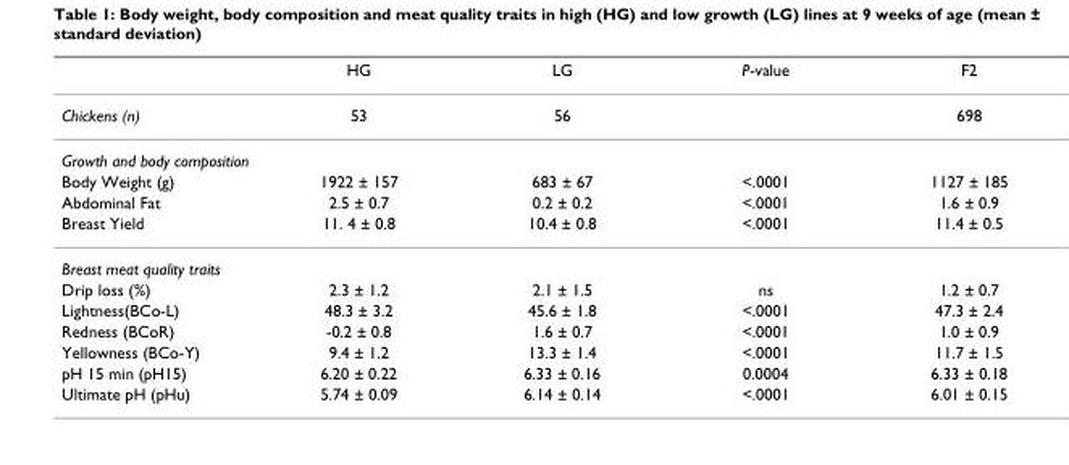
<table><thead><tr><td></td><td>HG</td><td>LG</td><td>P-value</td><td>F2</td></tr></thead><tbody><tr><td>Chickens (n)</td><td>53</td><td>56</td><td></td><td>698</td></tr><tr><td colspan="5">Growth and body composition</td></tr><tr><td>Body Weight (g)</td><td>1922 ± 157</td><td>683 ± 67</td><td>&lt;.0001</td><td>1127 ± 185</td></tr><tr><td>Abdominal Fat</td><td>2.5 ± 0.7</td><td>0.2 ± 0.2</td><td>&lt;.0001</td><td>1.6 ± 0.9</td></tr><tr><td>Breast Yield</td><td>11. 4 ± 0.8</td><td>10.4 ± 0.8</td><td>&lt;.0001</td><td>11.4 ± 0.5</td></tr><tr><td colspan="5">Breast meat quality traits</td></tr><tr><td>Drip loss (%)</td><td>2.3 ± 1.2</td><td>2.1 ± 1.5</td><td>ns</td><td>1.2 ± 0.7</td></tr><tr><td>Lightness(BCo-L)</td><td>48.3 ± 3.2</td><td>45.6 ± 1.8</td><td>&lt;.0001</td><td>47.3 ± 2.4</td></tr><tr><td>Redness (BCoR)</td><td>-0.2 ± 0.8</td><td>1.6 ± 0.7</td><td>&lt;.0001</td><td>1.0 ± 0.9</td></tr><tr><td>Yellowness (BCo-Y)</td><td>9.4 ± 1.2</td><td>13.3 ± 1.4</td><td>&lt;.0001</td><td>11.7 ± 1.5</td></tr><tr><td>pH 15 min (pH15)</td><td>6.20 ± 0.22</td><td>6.33 ± 0.16</td><td>0.0004</td><td>6.33 ± 0.18</td></tr><tr><td>Ultimate pH (pHu)</td><td>5.74 ± 0.09</td><td>6.14 ± 0.14</td><td>&lt;.0001</td><td>6.01 ± 0.15</td></tr></tbody></table>